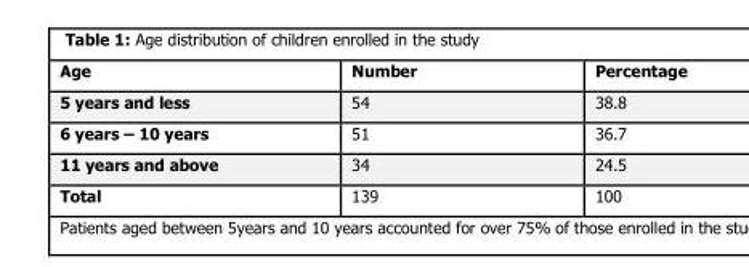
<table><thead><tr><td>Age</td><td>Number</td><td>Percentage</td></tr></thead><tbody><tr><td>5 years and less</td><td>54</td><td>38.8</td></tr><tr><td>6 years – 10 years</td><td>51</td><td>36.7</td></tr><tr><td>11 years and above</td><td>34</td><td>24.5</td></tr><tr><td>Total</td><td>139</td><td>100</td></tr></tbody></table>